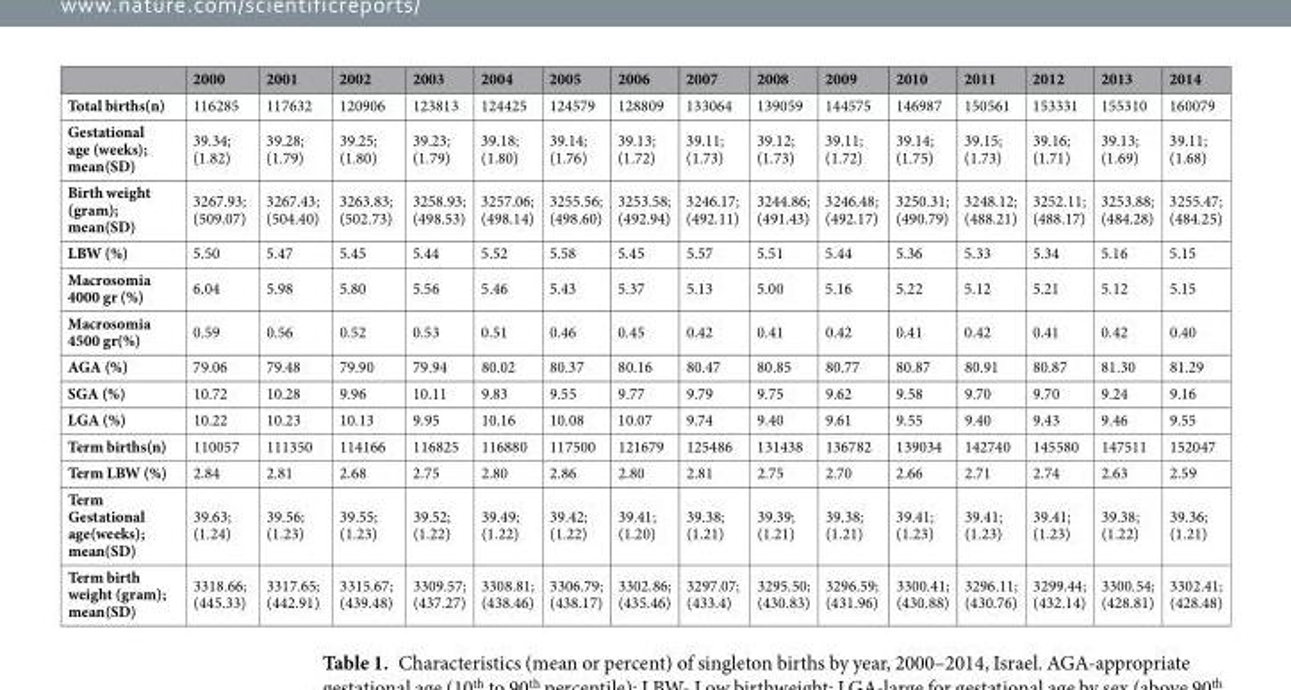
<table><thead><tr><td></td><td>2000</td><td>2001</td><td>2002</td><td>2003</td><td>2004</td><td>2005</td><td>2006</td><td>2007</td><td>2008</td><td>2009</td><td>2010</td><td>2011</td><td>2012</td><td>2013</td><td>2014</td></tr></thead><tbody><tr><td>Total births(n)</td><td>116285</td><td>117632</td><td>120906</td><td>123813</td><td>124425</td><td>124579</td><td>128809</td><td>133064</td><td>139059</td><td>144575</td><td>146987</td><td>150561</td><td>153331</td><td>155310</td><td>160079</td></tr><tr><td>Gestational age (weeks); mean(SD)</td><td>39.34; (1.82)</td><td>39.28; (1.79)</td><td>39.25; (1.80)</td><td>39.23; (1.79)</td><td>39.18; (1.80)</td><td>39.14; (1.76)</td><td>39.13; (1.72)</td><td>39.11; (1.73)</td><td>39.12; (1.73)</td><td>39.11; (1.72)</td><td>39.14; (1.75)</td><td>39.15; (1.73)</td><td>39.16; (1.71)</td><td>39.13; (1.69)</td><td>39.11; (1.68)</td></tr><tr><td>Birth weight (gram); mean(SD)</td><td>3267.93; (509.07)</td><td>3267.43; (504.40)</td><td>3263.83; (502.73)</td><td>3258.93; (498.53)</td><td>3257.06; (498.14)</td><td>3255.56; (498.60)</td><td>3253.58; (492.94)</td><td>3246.17; (492.11)</td><td>3244.86; (491.43)</td><td>3246.48; (492.17)</td><td>3250.31; (490.79)</td><td>3248.12; (488.21)</td><td>3252.11; (488.17)</td><td>3253.88; (484.28)</td><td>3255.47; (484.25)</td></tr><tr><td>LBW (%)</td><td>5.50</td><td>5.47</td><td>5.45</td><td>5.44</td><td>5.52</td><td>5.58</td><td>5.45</td><td>5.57</td><td>5.51</td><td>5.44</td><td>5.36</td><td>5.33</td><td>5.34</td><td>5.16</td><td>5.15</td></tr><tr><td>Macrosomia 4000 gr (%)</td><td>6.04</td><td>5.98</td><td>5.80</td><td>5.56</td><td>5.46</td><td>5.43</td><td>5.37</td><td>5.13</td><td>5.00</td><td>5.16</td><td>5.22</td><td>5.12</td><td>5.21</td><td>5.12</td><td>5.15</td></tr><tr><td>Macrosomia 4500 gr(%)</td><td>0.59</td><td>0.56</td><td>0.52</td><td>0.53</td><td>0.51</td><td>0.46</td><td>0.45</td><td>0.42</td><td>0.41</td><td>0.42</td><td>0.41</td><td>0.42</td><td>0.41</td><td>0.42</td><td>0.40</td></tr><tr><td>AGA (%)</td><td>79.06</td><td>79.48</td><td>79.90</td><td>79.94</td><td>80.02</td><td>80.37</td><td>80.16</td><td>80.47</td><td>80.85</td><td>80.77</td><td>80.87</td><td>80.91</td><td>80.87</td><td>81.30</td><td>81.29</td></tr><tr><td>SGA (%)</td><td>10.72</td><td>10.28</td><td>9.96</td><td>10.11</td><td>9.83</td><td>9.55</td><td>9.77</td><td>9.79</td><td>9.75</td><td>9.62</td><td>9.58</td><td>9.70</td><td>9.70</td><td>9.24</td><td>9.16</td></tr><tr><td>LGA (%)</td><td>10.22</td><td>10.23</td><td>10.13</td><td>9.95</td><td>10.16</td><td>10.08</td><td>10.07</td><td>9.74</td><td>9.40</td><td>9.61</td><td>9.55</td><td>9.40</td><td>9.43</td><td>9.46</td><td>9.55</td></tr><tr><td>Term births(n)</td><td>110057</td><td>111350</td><td>114166</td><td>116825</td><td>116880</td><td>117500</td><td>121679</td><td>125486</td><td>131438</td><td>136782</td><td>139034</td><td>142740</td><td>145580</td><td>147511</td><td>152047</td></tr><tr><td>Term LBW (%)</td><td>2.84</td><td>2.81</td><td>2.68</td><td>2.75</td><td>2.80</td><td>2.86</td><td>2.80</td><td>2.81</td><td>2.75</td><td>2.70</td><td>2.66</td><td>2.71</td><td>2.74</td><td>2.63</td><td>2.59</td></tr><tr><td>Term Gestational age(weeks); mean(SD)</td><td>39.63; (1.24)</td><td>39.56; (1.23)</td><td>39.55; (1.23)</td><td>39.52; (1.22)</td><td>39.49; (1.22)</td><td>39.42; (1.22)</td><td>39.41; (1.20)</td><td>39.38; (1.21)</td><td>39.39; (1.21)</td><td>39.38; (1.21)</td><td>39.41; (1.23)</td><td>39.41; (1.23)</td><td>39.41; (1.23)</td><td>39.38; (1.22)</td><td>39.36; (1.21)</td></tr><tr><td>Term birth weight (gram); mean(SD)</td><td>3318.66; (445.33)</td><td>3317.65; (442.91)</td><td>3315.67; (439.48)</td><td>3309.57; (437.27)</td><td>3308.81; (438.46)</td><td>3306.79; (438.17)</td><td>3302.86; (435.46)</td><td>3297.07; (433.4)</td><td>3295.50; (430.83)</td><td>3296.59; (431.96)</td><td>3300.41; (430.88)</td><td>3296.11; (430.76)</td><td>3299.44; (432.14)</td><td>3300.54; (428.81)</td><td>3302.41; (428.48)</td></tr></tbody></table>